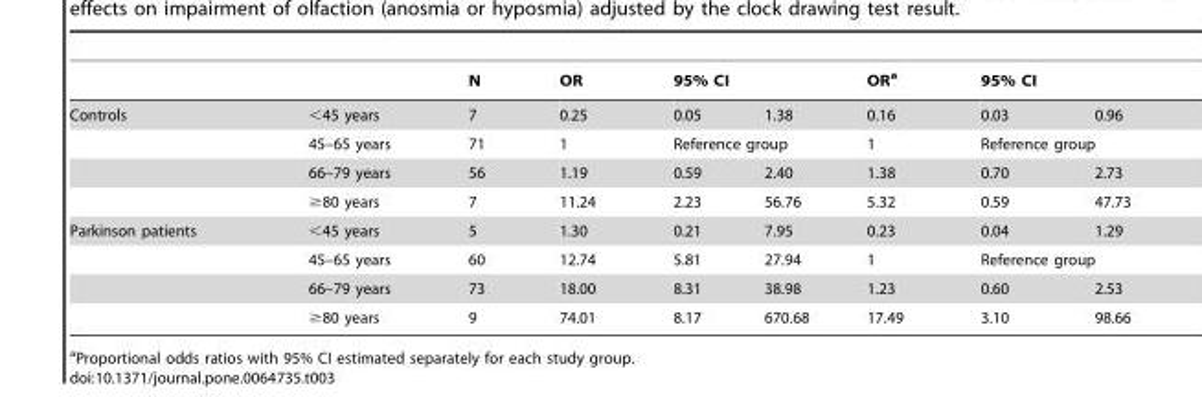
<table><thead><tr><td rowspan="2">Controls</td><td rowspan="2">&lt;45 years</td><td rowspan="2">N 7</td><td rowspan="2">OR 0.25</td><td colspan="2">95% CI</td><td rowspan="2">OR<sup>a</sup> 0.16</td><td colspan="2">95% CI</td></tr><tr><td>0.05</td><td>1.38</td><td>0.03</td><td>0.96</td></tr></thead><tbody><tr><td></td><td>45–65 years</td><td>71</td><td>1</td><td colspan="2">Reference group</td><td>1</td><td colspan="2">Reference group</td></tr><tr><td></td><td>66–79 years</td><td>56</td><td>1.19</td><td>0.59</td><td>2.40</td><td>1.38</td><td>0.70</td><td>2.73</td></tr><tr><td></td><td>≥80 years</td><td>7</td><td>11.24</td><td>2.23</td><td>56.76</td><td>5.32</td><td>0.59</td><td>47.73</td></tr><tr><td rowspan="4">Parkinson patients</td><td>&lt;45 years</td><td>5</td><td>1.30</td><td>0.21</td><td>7.95</td><td>0.23</td><td>0.04</td><td>1.29</td></tr><tr><td>45–65 years</td><td>60</td><td>12.74</td><td>5.81</td><td>27.94</td><td>1</td><td colspan="2">Reference group</td></tr><tr><td>66–79 years</td><td>73</td><td>18.00</td><td>8.31</td><td>38.98</td><td>1.23</td><td>0.60</td><td>2.53</td></tr><tr><td>≥80 years</td><td>9</td><td>74.01</td><td>8.17</td><td>670.68</td><td>17.49</td><td>3.10</td><td>98.66</td></tr></tbody></table>